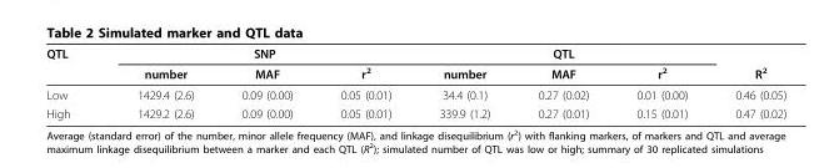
<table><thead><tr><td rowspan="2">QTL</td><td colspan="3">SNP</td><td colspan="3">QTL</td><td rowspan="2">R2</td></tr><tr><td>number</td><td>MAF</td><td>r2</td><td>number</td><td>MAF</td><td>r2</td></tr></thead><tbody><tr><td>Low</td><td>1429.4 (2.6)</td><td>0.09 (0.00)</td><td>0.05 (0.01)</td><td>34.4 (0.1)</td><td>0.27 (0.02)</td><td>0.01 (0.00)</td><td>0.46 (0.05)</td></tr><tr><td>High</td><td>1429.2 (2.6)</td><td>0.09 (0.00)</td><td>0.05 (0.01)</td><td>339.9 (1.2)</td><td>0.27 (0.01)</td><td>0.15 (0.01)</td><td>0.47 (0.02)</td></tr></tbody></table>